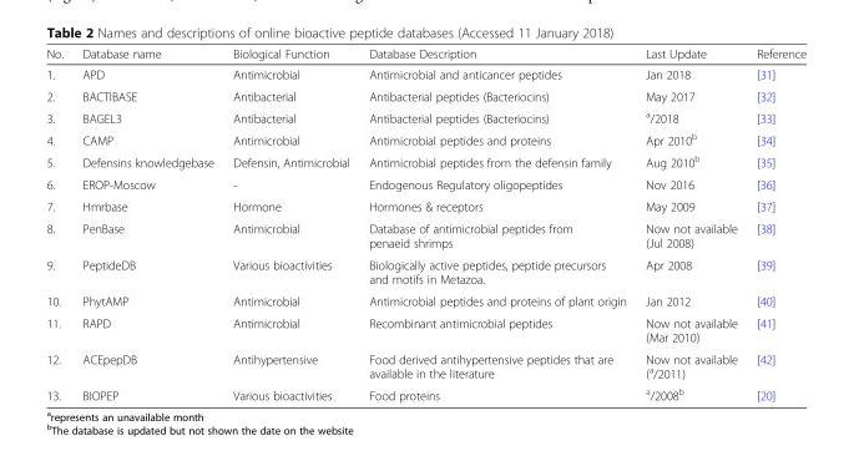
<table><thead><tr><td>No.</td><td>Database name</td><td>Biological Function</td><td>Database Description</td><td>Last Update</td><td>Reference</td></tr></thead><tbody><tr><td>1.</td><td>APD</td><td>Antimicrobial</td><td>Antimicrobial and anticancer peptides</td><td>Jan 2018</td><td>[31]</td></tr><tr><td>2.</td><td>BACTIBASE</td><td>Antibacterial</td><td>Antibacterial peptides (Bacteriocins)</td><td>May 2017</td><td>[32]</td></tr><tr><td>3.</td><td>BAGEL3</td><td>Antibacterial</td><td>Antibacterial peptides (Bacteriocins)</td><td><sup>a</sup>/2018</td><td>[33]</td></tr><tr><td>4.</td><td>CAMP</td><td>Antimicrobial</td><td>Antimicrobial peptides and proteins</td><td>Apr 2010<sup>b</sup></td><td>[34]</td></tr><tr><td>5.</td><td>Defensins knowledgebase</td><td>Defensin, Antimicrobial</td><td>Antimicrobial peptides from the defensin family</td><td>Aug 2010<sup>b</sup></td><td>[35]</td></tr><tr><td>6.</td><td>EROP-Moscow</td><td>-</td><td>Endogenous Regulatory oligopeptides</td><td>Nov 2016</td><td>[36]</td></tr><tr><td>7.</td><td>Hmrbase</td><td>Hormone</td><td>Hormones &amp; receptors</td><td>May 2009</td><td>[37]</td></tr><tr><td>8.</td><td>PenBase</td><td>Antimicrobial</td><td>Database of antimicrobial peptides from penaeid shrimps</td><td>Now not available (Jul 2008)</td><td>[38]</td></tr><tr><td>9.</td><td>PeptideDB</td><td>Various bioactivities</td><td>Biologically active peptides, peptide precursors and motifs in Metazoa.</td><td>Apr 2008</td><td>[39]</td></tr><tr><td>10.</td><td>PhytAMP</td><td>Antimicrobial</td><td>Antimicrobial peptides and proteins of plant origin</td><td>Jan 2012</td><td>[40]</td></tr><tr><td>11.</td><td>RAPD</td><td>Antimicrobial</td><td>Recombinant antimicrobial peptides</td><td>Now not available (Mar 2010)</td><td>[41]</td></tr><tr><td>12.</td><td>ACEpepDB</td><td>Antihypertensive</td><td>Food derived antihypertensive peptides that are available in the literature</td><td>Now not available (<sup>a</sup>/2011)</td><td>[42]</td></tr><tr><td>13.</td><td>BIOPEP</td><td>Various bioactivities</td><td>Food proteins</td><td><sup>a</sup>/2008<sup>b</sup></td><td>[20]</td></tr></tbody></table>